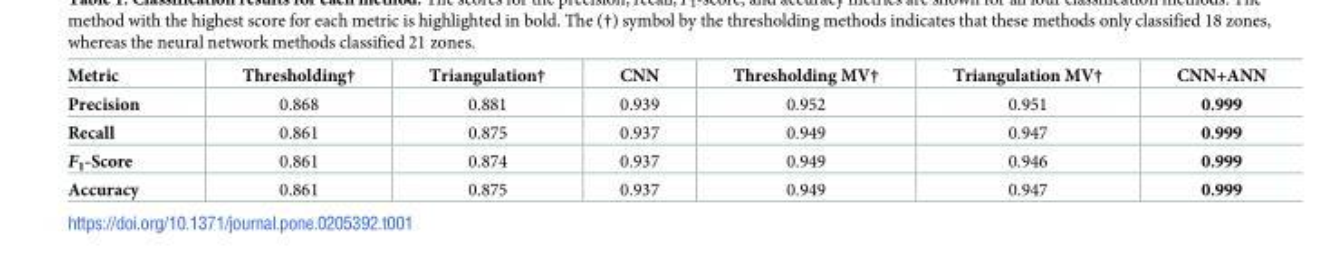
<table><thead><tr><td>Metric</td><td>Thresholding†</td><td>Triangulation†</td><td>CNN</td><td>Thresholding MV†</td><td>Triangulation MV†</td><td>CNN+ANN</td></tr></thead><tbody><tr><td>Precision</td><td>0.868</td><td>0.881</td><td>0.939</td><td>0.952</td><td>0.951</td><td>0.999</td></tr><tr><td>Recall</td><td>0.861</td><td>0.875</td><td>0.937</td><td>0.949</td><td>0.947</td><td>0.999</td></tr><tr><td>F<sub>1</sub>-Score</td><td>0.861</td><td>0.874</td><td>0.937</td><td>0.949</td><td>0.946</td><td>0.999</td></tr><tr><td>Accuracy</td><td>0.861</td><td>0.875</td><td>0.937</td><td>0.949</td><td>0.947</td><td>0.999</td></tr></tbody></table>